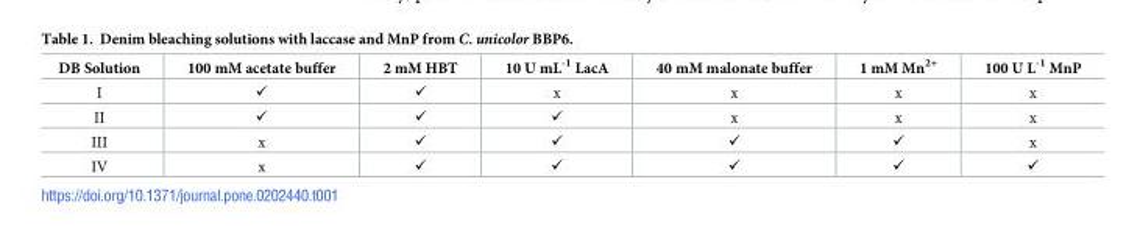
<table><thead><tr><td>DB Solution</td><td>100 mM acetate buffer</td><td>2 mM HBT</td><td>10 U mL<sup>-1</sup> LacA</td><td>40 mM malonate buffer</td><td>1 mM Mn<sup>2+</sup></td><td>100 U L<sup>-1</sup> MnP</td></tr></thead><tbody><tr><td>I</td><td>✓</td><td>✓</td><td>x</td><td>x</td><td>x</td><td>x</td></tr><tr><td>II</td><td>✓</td><td>✓</td><td>✓</td><td>x</td><td>x</td><td>x</td></tr><tr><td>III</td><td>x</td><td>✓</td><td>✓</td><td>✓</td><td>✓</td><td>x</td></tr><tr><td>IV</td><td>x</td><td>✓</td><td>✓</td><td>✓</td><td>✓</td><td>✓</td></tr></tbody></table>